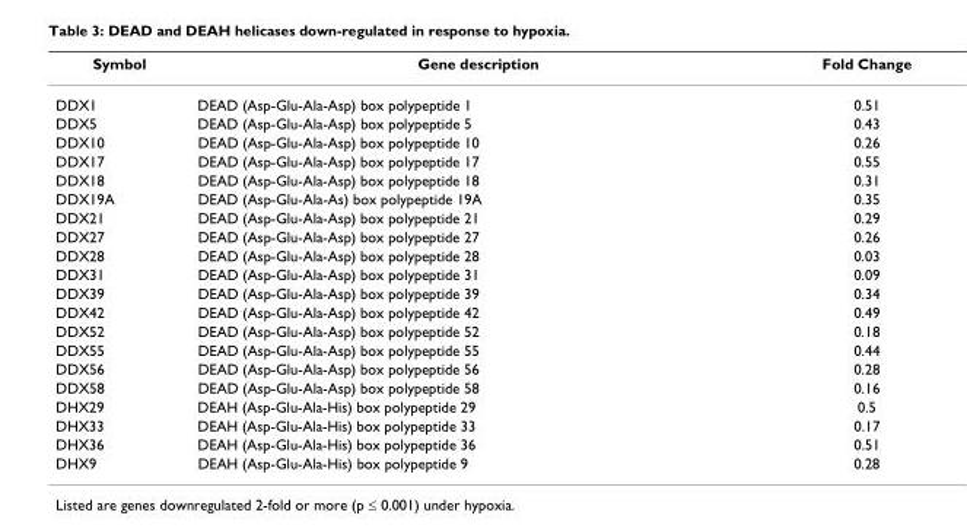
<table><thead><tr><td>Symbol</td><td>Gene description</td><td>Fold Change</td></tr></thead><tbody><tr><td>DDX1</td><td>DEAD (Asp-Glu-Ala-Asp) box polypeptide 1</td><td>0.51</td></tr><tr><td>DDX5</td><td>DEAD (Asp-Glu-Ala-Asp) box polypeptide 5</td><td>0.43</td></tr><tr><td>DDX10</td><td>DEAD (Asp-Glu-Ala-Asp) box polypeptide 10</td><td>0.26</td></tr><tr><td>DDX17</td><td>DEAD (Asp-Glu-Ala-Asp) box polypeptide 17</td><td>0.55</td></tr><tr><td>DDX18</td><td>DEAD (Asp-Glu-Ala-Asp) box polypeptide 18</td><td>0.31</td></tr><tr><td>DDX19A</td><td>DEAD (Asp-Glu-Ala-As) box polypeptide 19A</td><td>0.35</td></tr><tr><td>DDX21</td><td>DEAD (Asp-Glu-Ala-Asp) box polypeptide 21</td><td>0.29</td></tr><tr><td>DDX27</td><td>DEAD (Asp-Glu-Ala-Asp) box polypeptide 27</td><td>0.26</td></tr><tr><td>DDX28</td><td>DEAD (Asp-Glu-Ala-Asp) box polypeptide 28</td><td>0.03</td></tr><tr><td>DDX31</td><td>DEAD (Asp-Glu-Ala-Asp) box polypeptide 31</td><td>0.09</td></tr><tr><td>DDX39</td><td>DEAD (Asp-Glu-Ala-Asp) box polypeptide 39</td><td>0.34</td></tr><tr><td>DDX42</td><td>DEAD (Asp-Glu-Ala-Asp) box polypeptide 42</td><td>0.49</td></tr><tr><td>DDX52</td><td>DEAD (Asp-Glu-Ala-Asp) box polypeptide 52</td><td>0.18</td></tr><tr><td>DDX55</td><td>DEAD (Asp-Glu-Ala-Asp) box polypeptide 55</td><td>0.44</td></tr><tr><td>DDX56</td><td>DEAD (Asp-Glu-Ala-Asp) box polypeptide 56</td><td>0.28</td></tr><tr><td>DDX58</td><td>DEAD (Asp-Glu-Ala-Asp) box polypeptide 58</td><td>0.16</td></tr><tr><td>DHX29</td><td>DEAH (Asp-Glu-Ala-His) box polypeptide 29</td><td>0.5</td></tr><tr><td>DHX33</td><td>DEAH (Asp-Glu-Ala-His) box polypeptide 33</td><td>0.17</td></tr><tr><td>DHX36</td><td>DEAH (Asp-Glu-Ala-His) box polypeptide 36</td><td>0.51</td></tr><tr><td>DHX9</td><td>DEAH (Asp-Glu-Ala-His) box polypeptide 9</td><td>0.28</td></tr></tbody></table>